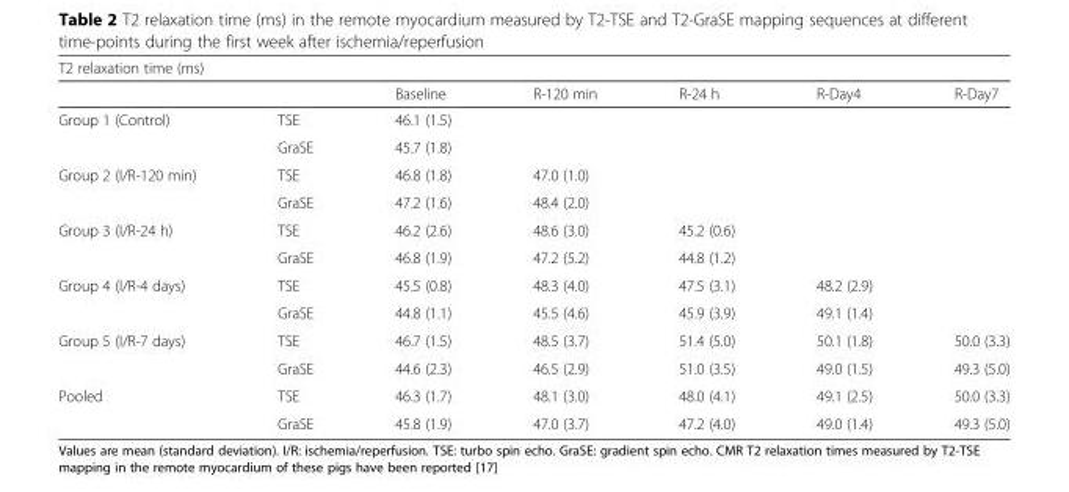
<table><thead><tr><td colspan="7">T2 relaxation time (ms)</td></tr><tr><td></td><td></td><td>Baseline</td><td>R-120 min</td><td>R-24 h</td><td>R-Day4</td><td>R-Day7</td></tr></thead><tbody><tr><td rowspan="2">Group 1 (Control)</td><td>TSE</td><td>46.1 (1.5)</td><td></td><td></td><td></td><td></td></tr><tr><td>GraSE</td><td>45.7 (1.8)</td><td></td><td></td><td></td><td></td></tr><tr><td rowspan="2">Group 2 (I/R-120 min)</td><td>TSE</td><td>46.8 (1.8)</td><td>47.0 (1.0)</td><td></td><td></td><td></td></tr><tr><td>GraSE</td><td>47.2 (1.6)</td><td>48.4 (2.0)</td><td></td><td></td><td></td></tr><tr><td rowspan="2">Group 3 (I/R-24 h)</td><td>TSE</td><td>46.2 (2.6)</td><td>48.6 (3.0)</td><td>45.2 (0.6)</td><td></td><td></td></tr><tr><td>GraSE</td><td>46.8 (1.9)</td><td>47.2 (5.2)</td><td>44.8 (1.2)</td><td></td><td></td></tr><tr><td rowspan="2">Group 4 (I/R-4 days)</td><td>TSE</td><td>45.5 (0.8)</td><td>48.3 (4.0)</td><td>47.5 (3.1)</td><td>48.2 (2.9)</td><td></td></tr><tr><td>GraSE</td><td>44.8 (1.1)</td><td>45.5 (4.6)</td><td>45.9 (3.9)</td><td>49.1 (1.4)</td><td></td></tr><tr><td rowspan="2">Group 5 (I/R-7 days)</td><td>TSE</td><td>46.7 (1.5)</td><td>48.5 (3.7)</td><td>51.4 (5.0)</td><td>50.1 (1.8)</td><td>50.0 (3.3)</td></tr><tr><td>GraSE</td><td>44.6 (2.3)</td><td>46.5 (2.9)</td><td>51.0 (3.5)</td><td>49.0 (1.5)</td><td>49.3 (5.0)</td></tr><tr><td rowspan="2">Pooled</td><td>TSE</td><td>46.3 (1.7)</td><td>48.1 (3.0)</td><td>48.0 (4.1)</td><td>49.1 (2.5)</td><td>50.0 (3.3)</td></tr><tr><td>GraSE</td><td>45.8 (1.9)</td><td>47.0 (3.7)</td><td>47.2 (4.0)</td><td>49.0 (1.4)</td><td>49.3 (5.0)</td></tr></tbody></table>